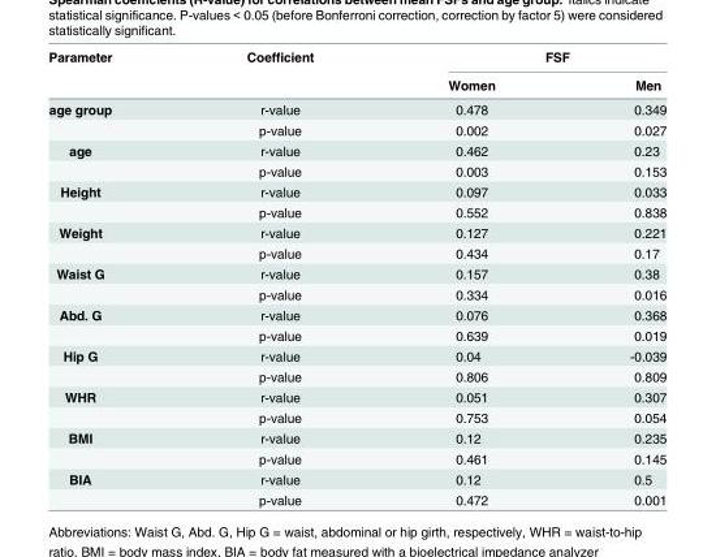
<table><thead><tr><td rowspan="2">Parameter</td><td rowspan="2">Coefficient</td><td colspan="2">FSF</td></tr><tr><td>Women</td><td>Men</td></tr></thead><tbody><tr><td rowspan="2">age group</td><td>r-value</td><td>0.478</td><td>0.349</td></tr><tr><td>p-value</td><td>0.002</td><td>0.027</td></tr><tr><td rowspan="2">age</td><td>r-value</td><td>0.462</td><td>0.23</td></tr><tr><td>p-value</td><td>0.003</td><td>0.153</td></tr><tr><td rowspan="2">Height</td><td>r-value</td><td>0.097</td><td>0.033</td></tr><tr><td>p-value</td><td>0.552</td><td>0.838</td></tr><tr><td rowspan="2">Weight</td><td>r-value</td><td>0.127</td><td>0.221</td></tr><tr><td>p-value</td><td>0.434</td><td>0.17</td></tr><tr><td rowspan="2">Waist G</td><td>r-value</td><td>0.157</td><td>0.38</td></tr><tr><td>p-value</td><td>0.334</td><td>0.016</td></tr><tr><td rowspan="2">Abd. G</td><td>r-value</td><td>0.076</td><td>0.368</td></tr><tr><td>p-value</td><td>0.639</td><td>0.019</td></tr><tr><td rowspan="2">Hip G</td><td>r-value</td><td>0.04</td><td>-0.039</td></tr><tr><td>p-value</td><td>0.806</td><td>0.809</td></tr><tr><td rowspan="2">WHR</td><td>r-value</td><td>0.051</td><td>0.307</td></tr><tr><td>p-value</td><td>0.753</td><td>0.054</td></tr><tr><td rowspan="2">BMI</td><td>r-value</td><td>0.12</td><td>0.235</td></tr><tr><td>p-value</td><td>0.461</td><td>0.145</td></tr><tr><td rowspan="2">BIA</td><td>r-value</td><td>0.12</td><td>0.5</td></tr><tr><td>p-value</td><td>0.472</td><td>0.001</td></tr></tbody></table>